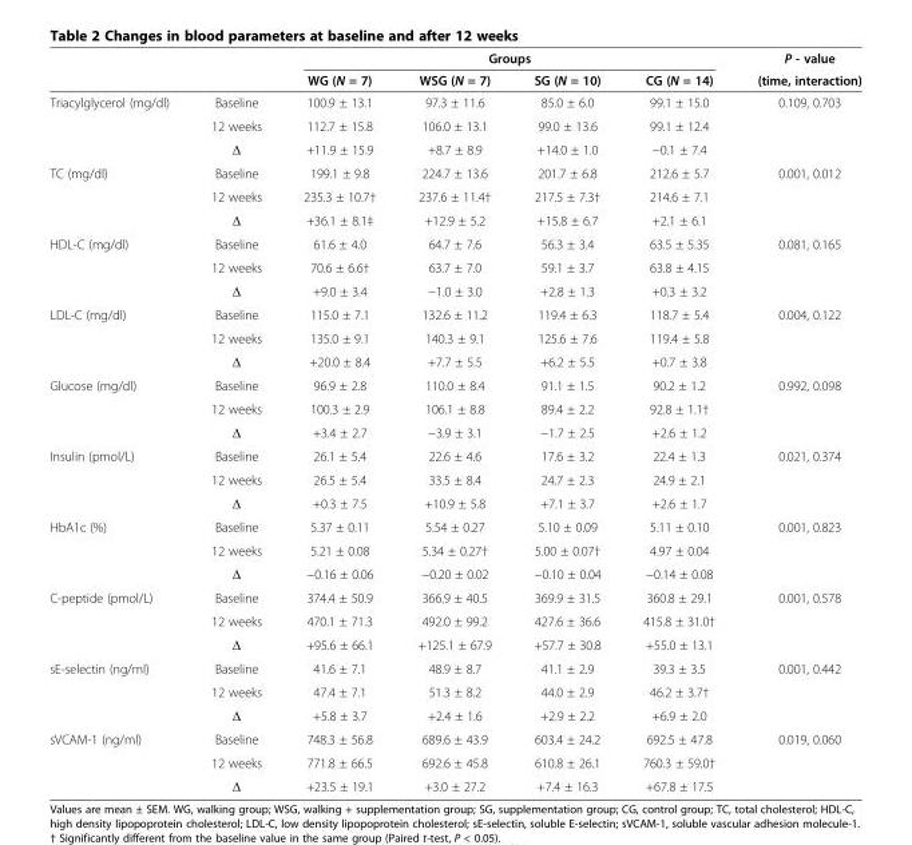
<table><thead><tr><td rowspan="2"></td><td rowspan="2"></td><td colspan="4">Groups</td><td rowspan="2">P - value (time, interaction)</td></tr><tr><td>WG (N = 7)</td><td>WSG (N = 7)</td><td>SG (N = 10)</td><td>CG (N = 14)</td></tr></thead><tbody><tr><td rowspan="3">Triacylglycerol (mg/dl)</td><td>Baseline</td><td>100.9 ± 13.1</td><td>97.3 ± 11.6</td><td>85.0 ± 6.0</td><td>99.1 ± 15.0</td><td rowspan="3">0.109, 0.703</td></tr><tr><td>12 weeks</td><td>112.7 ± 15.8</td><td>106.0 ± 13.1</td><td>99.0 ± 13.6</td><td>99.1 ± 12.4</td></tr><tr><td>Δ</td><td>+11.9 ± 15.9</td><td>+8.7 ± 8.9</td><td>+14.0 ± 1.0</td><td>−0.1 ± 7.4</td></tr><tr><td rowspan="3">TC (mg/dl)</td><td>Baseline</td><td>199.1 ± 9.8</td><td>224.7 ± 13.6</td><td>201.7 ± 6.8</td><td>212.6 ± 5.7</td><td rowspan="3">0.001, 0.012</td></tr><tr><td>12 weeks</td><td>235.3 ± 10.7†</td><td>237.6 ± 11.4†</td><td>217.5 ± 7.3†</td><td>214.6 ± 7.1</td></tr><tr><td>Δ</td><td>+36.1 ± 8.1‡</td><td>+12.9 ± 5.2</td><td>+15.8 ± 6.7</td><td>+2.1 ± 6.1</td></tr><tr><td rowspan="3">HDL-C (mg/dl)</td><td>Baseline</td><td>61.6 ± 4.0</td><td>64.7 ± 7.6</td><td>56.3 ± 3.4</td><td>63.5 ± 5.35</td><td rowspan="3">0.081, 0.165</td></tr><tr><td>12 weeks</td><td>70.6 ± 6.6†</td><td>63.7 ± 7.0</td><td>59.1 ± 3.7</td><td>63.8 ± 4.15</td></tr><tr><td>Δ</td><td>+9.0 ± 3.4</td><td>−1.0 ± 3.0</td><td>+2.8 ± 1.3</td><td>+0.3 ± 3.2</td></tr><tr><td rowspan="3">LDL-C (mg/dl)</td><td>Baseline</td><td>115.0 ± 7.1</td><td>132.6 ± 11.2</td><td>119.4 ± 6.3</td><td>118.7 ± 5.4</td><td rowspan="3">0.004, 0.122</td></tr><tr><td>12 weeks</td><td>135.0 ± 9.1</td><td>140.3 ± 9.1</td><td>125.6 ± 7.6</td><td>119.4 ± 5.8</td></tr><tr><td>Δ</td><td>+20.0 ± 8.4</td><td>+7.7 ± 5.5</td><td>+6.2 ± 5.5</td><td>+0.7 ± 3.8</td></tr><tr><td rowspan="3">Glucose (mg/dl)</td><td>Baseline</td><td>96.9 ± 2.8</td><td>110.0 ± 8.4</td><td>91.1 ± 1.5</td><td>90.2 ± 1.2</td><td rowspan="3">0.992, 0.098</td></tr><tr><td>12 weeks</td><td>100.3 ± 2.9</td><td>106.1 ± 8.8</td><td>89.4 ± 2.2</td><td>92.8 ± 1.1†</td></tr><tr><td>Δ</td><td>+3.4 ± 2.7</td><td>−3.9 ± 3.1</td><td>−1.7 ± 2.5</td><td>+2.6 ± 1.2</td></tr><tr><td rowspan="3">Insulin (pmol/L)</td><td>Baseline</td><td>26.1 ± 5.4</td><td>22.6 ± 4.6</td><td>17.6 ± 3.2</td><td>22.4 ± 1.3</td><td rowspan="3">0.021, 0.374</td></tr><tr><td>12 weeks</td><td>26.5 ± 5.4</td><td>33.5 ± 8.4</td><td>24.7 ± 2.3</td><td>24.9 ± 2.1</td></tr><tr><td>Δ</td><td>+0.3 ± 7.5</td><td>+10.9 ± 5.8</td><td>+7.1 ± 3.7</td><td>+2.6 ± 1.7</td></tr><tr><td rowspan="3">HbA1c (%)</td><td>Baseline</td><td>5.37 ± 0.11</td><td>5.54 ± 0.27</td><td>5.10 ± 0.09</td><td>5.11 ± 0.10</td><td rowspan="3">0.001, 0.823</td></tr><tr><td>12 weeks</td><td>5.21 ± 0.08</td><td>5.34 ± 0.27†</td><td>5.00 ± 0.07†</td><td>4.97 ± 0.04</td></tr><tr><td>Δ</td><td>−0.16 ± 0.06</td><td>−0.20 ± 0.02</td><td>−0.10 ± 0.04</td><td>−0.14 ± 0.08</td></tr><tr><td rowspan="3">C-peptide (pmol/L)</td><td>Baseline</td><td>374.4 ± 50.9</td><td>366.9 ± 40.5</td><td>369.9 ± 31.5</td><td>360.8 ± 29.1</td><td rowspan="3">0.001, 0.578</td></tr><tr><td>12 weeks</td><td>470.1 ± 71.3</td><td>492.0 ± 99.2</td><td>427.6 ± 36.6</td><td>415.8 ± 31.0†</td></tr><tr><td>Δ</td><td>+95.6 ± 66.1</td><td>+125.1 ± 67.9</td><td>+57.7 ± 30.8</td><td>+55.0 ± 13.1</td></tr><tr><td rowspan="3">sE-selectin (ng/ml)</td><td>Baseline</td><td>41.6 ± 7.1</td><td>48.9 ± 8.7</td><td>41.1 ± 2.9</td><td>39.3 ± 3.5</td><td rowspan="3">0.001, 0.442</td></tr><tr><td>12 weeks</td><td>47.4 ± 7.1</td><td>51.3 ± 8.2</td><td>44.0 ± 2.9</td><td>46.2 ± 3.7†</td></tr><tr><td>Δ</td><td>+5.8 ± 3.7</td><td>+2.4 ± 1.6</td><td>+2.9 ± 2.2</td><td>+6.9 ± 2.0</td></tr><tr><td rowspan="3">sVCAM-1 (ng/ml)</td><td>Baseline</td><td>748.3 ± 56.8</td><td>689.6 ± 43.9</td><td>603.4 ± 24.2</td><td>692.5 ± 47.8</td><td rowspan="3">0.019, 0.060</td></tr><tr><td>12 weeks</td><td>771.8 ± 66.5</td><td>692.6 ± 45.8</td><td>610.8 ± 26.1</td><td>760.3 ± 59.0†</td></tr><tr><td>Δ</td><td>+23.5 ± 19.1</td><td>+3.0 ± 27.2</td><td>+7.4 ± 16.3</td><td>+67.8 ± 17.5</td></tr></tbody></table>